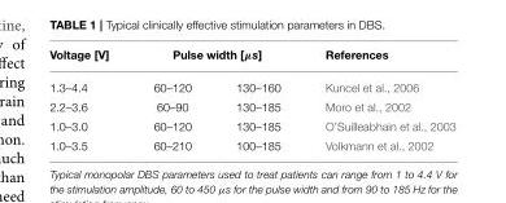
<table><thead><tr><td rowspan="2">Voltage [V] 1.3–4.4</td><td colspan="2">Pulse width [µs]</td><td rowspan="2">References Kuncel et al., 2006</td></tr><tr><td>60–120</td><td>130–160</td></tr></thead><tbody><tr><td>2.2–3.6</td><td>60–90</td><td>130–185</td><td>Moro et al., 2002</td></tr><tr><td>1.0–3.0</td><td>60–120</td><td>130–185</td><td>O’Suilleabhain et al., 2003</td></tr><tr><td>1.0–3.5</td><td>60–210</td><td>100–185</td><td>Volkmann et al., 2002</td></tr></tbody></table>